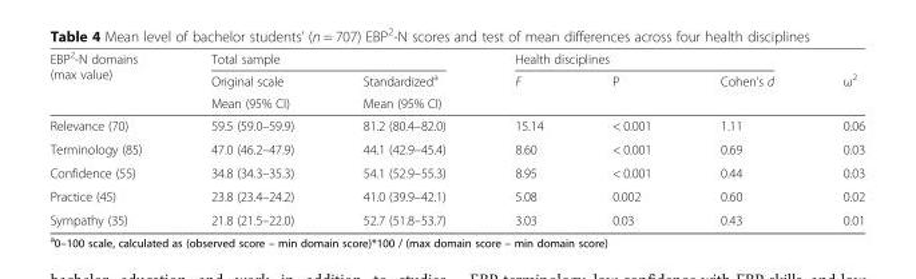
<table><thead><tr><td rowspan="3">EBP<sup>2</sup>-N domains (max value)</td><td colspan="2">Total sample</td><td colspan="3">Health disciplines</td><td rowspan="3">ω<sup>2</sup></td></tr><tr><td rowspan="2">Original scale Mean (95% CI)</td><td rowspan="2">Standardized<sup>a</sup> Mean (95% CI)</td><td rowspan="2">F</td><td rowspan="2">P</td><td rowspan="2">Cohen’s d</td></tr><tr></tr></thead><tbody><tr><td>Relevance (70)</td><td>59.5 (59.0–59.9)</td><td>81.2 (80.4–82.0)</td><td>15.14</td><td>&lt; 0.001</td><td>1.11</td><td>0.06</td></tr><tr><td>Terminology (85)</td><td>47.0 (46.2–47.9)</td><td>44.1 (42.9–45.4)</td><td>8.60</td><td>&lt; 0.001</td><td>0.69</td><td>0.03</td></tr><tr><td>Confidence (55)</td><td>34.8 (34.3–35.3)</td><td>54.1 (52.9–55.3)</td><td>8.95</td><td>&lt; 0.001</td><td>0.44</td><td>0.03</td></tr><tr><td>Practice (45)</td><td>23.8 (23.4–24.2)</td><td>41.0 (39.9–42.1)</td><td>5.08</td><td>0.002</td><td>0.60</td><td>0.02</td></tr><tr><td>Sympathy (35)</td><td>21.8 (21.5–22.0)</td><td>52.7 (51.8–53.7)</td><td>3.03</td><td>0.03</td><td>0.43</td><td>0.01</td></tr></tbody></table>